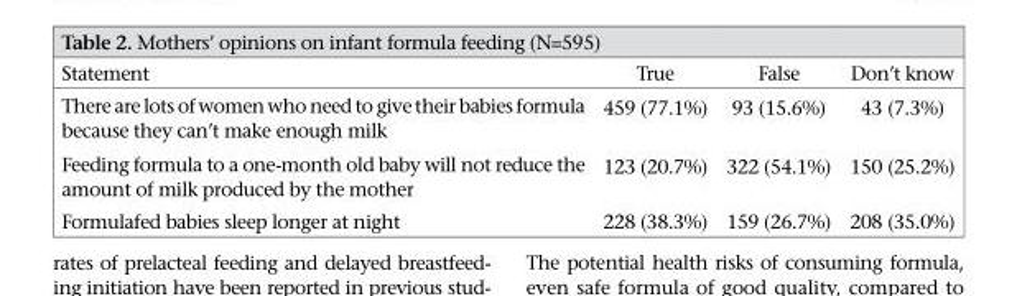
<table><thead><tr><td>Statement</td><td>True</td><td>False</td><td>Don’t know</td></tr></thead><tbody><tr><td>There are lots of women who need to give their babies formula because they can’t make enough milk</td><td>459 (77.1%)</td><td>93 (15.6%)</td><td>43 (7.3%)</td></tr><tr><td>Feeding formula to a one-month old baby will not reduce the amount of milk produced by the mother</td><td>123 (20.7%)</td><td>322 (54.1%)</td><td>150 (25.2%)</td></tr><tr><td>Formulafed babies sleep longer at night</td><td>228 (38.3%)</td><td>159 (26.7%)</td><td>208 (35.0%)</td></tr></tbody></table>